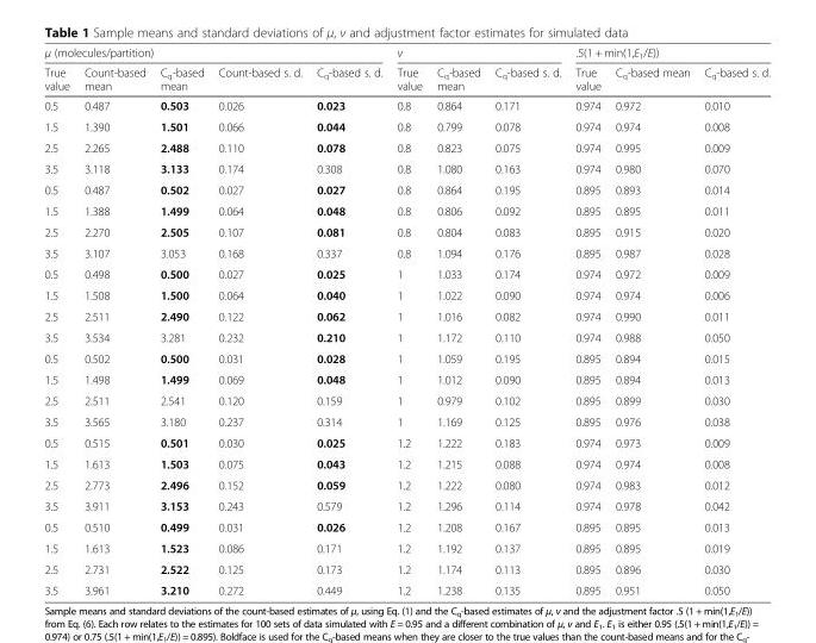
<table><thead><tr><td colspan="5">μ (molecules/partition)</td><td colspan="3">ν</td><td colspan="3">.5(1 + min(1,E<sub>1</sub>/E))</td></tr><tr><td>True value</td><td>Count-based mean</td><td>C<sub>q</sub>-based mean</td><td>Count-based s. d.</td><td>C<sub>q</sub>-based s. d.</td><td>True value</td><td>C<sub>q</sub>-based mean</td><td>C<sub>q</sub>-based s. d.</td><td>True value</td><td>C<sub>q</sub>-based mean</td><td>C<sub>q</sub>-based s. d.</td></tr></thead><tbody><tr><td>0.5</td><td>0.487</td><td>0.503</td><td>0.026</td><td>0.023</td><td>0.8</td><td>0.864</td><td>0.171</td><td>0.974</td><td>0.972</td><td>0.010</td></tr><tr><td>1.5</td><td>1.390</td><td>1.501</td><td>0.066</td><td>0.044</td><td>0.8</td><td>0.799</td><td>0.078</td><td>0.974</td><td>0.974</td><td>0.008</td></tr><tr><td>2.5</td><td>2.265</td><td>2.488</td><td>0.110</td><td>0.078</td><td>0.8</td><td>0.823</td><td>0.075</td><td>0.974</td><td>0.995</td><td>0.009</td></tr><tr><td>3.5</td><td>3.118</td><td>3.133</td><td>0.174</td><td>0.308</td><td>0.8</td><td>1.080</td><td>0.163</td><td>0.974</td><td>0.980</td><td>0.070</td></tr><tr><td>0.5</td><td>0.487</td><td>0.502</td><td>0.027</td><td>0.027</td><td>0.8</td><td>0.864</td><td>0.195</td><td>0.895</td><td>0.893</td><td>0.014</td></tr><tr><td>1.5</td><td>1.388</td><td>1.499</td><td>0.064</td><td>0.048</td><td>0.8</td><td>0.806</td><td>0.092</td><td>0.895</td><td>0.895</td><td>0.011</td></tr><tr><td>2.5</td><td>2.270</td><td>2.505</td><td>0.107</td><td>0.081</td><td>0.8</td><td>0.804</td><td>0.083</td><td>0.895</td><td>0.915</td><td>0.020</td></tr><tr><td>3.5</td><td>3.107</td><td>3.053</td><td>0.168</td><td>0.337</td><td>0.8</td><td>1.094</td><td>0.176</td><td>0.895</td><td>0.987</td><td>0.028</td></tr><tr><td>0.5</td><td>0.498</td><td>0.500</td><td>0.027</td><td>0.025</td><td>1</td><td>1.033</td><td>0.174</td><td>0.974</td><td>0.972</td><td>0.009</td></tr><tr><td>1.5</td><td>1.508</td><td>1.500</td><td>0.064</td><td>0.040</td><td>1</td><td>1.022</td><td>0.090</td><td>0.974</td><td>0.974</td><td>0.006</td></tr><tr><td>2.5</td><td>2.511</td><td>2.490</td><td>0.122</td><td>0.062</td><td>1</td><td>1.016</td><td>0.082</td><td>0.974</td><td>0.990</td><td>0.011</td></tr><tr><td>3.5</td><td>3.534</td><td>3.281</td><td>0.232</td><td>0.210</td><td>1</td><td>1.172</td><td>0.110</td><td>0.974</td><td>0.988</td><td>0.050</td></tr><tr><td>0.5</td><td>0.502</td><td>0.500</td><td>0.031</td><td>0.028</td><td>1</td><td>1.059</td><td>0.195</td><td>0.895</td><td>0.894</td><td>0.015</td></tr><tr><td>1.5</td><td>1.498</td><td>1.499</td><td>0.069</td><td>0.048</td><td>1</td><td>1.012</td><td>0.090</td><td>0.895</td><td>0.894</td><td>0.013</td></tr><tr><td>2.5</td><td>2.511</td><td>2.541</td><td>0.120</td><td>0.159</td><td>1</td><td>0.979</td><td>0.102</td><td>0.895</td><td>0.899</td><td>0.030</td></tr><tr><td>3.5</td><td>3.565</td><td>3.180</td><td>0.237</td><td>0.314</td><td>1</td><td>1.169</td><td>0.125</td><td>0.895</td><td>0.976</td><td>0.038</td></tr><tr><td>0.5</td><td>0.515</td><td>0.501</td><td>0.030</td><td>0.025</td><td>1.2</td><td>1.222</td><td>0.183</td><td>0.974</td><td>0.973</td><td>0.009</td></tr><tr><td>1.5</td><td>1.613</td><td>1.503</td><td>0.075</td><td>0.043</td><td>1.2</td><td>1.215</td><td>0.088</td><td>0.974</td><td>0.974</td><td>0.008</td></tr><tr><td>2.5</td><td>2.773</td><td>2.496</td><td>0.152</td><td>0.059</td><td>1.2</td><td>1.222</td><td>0.080</td><td>0.974</td><td>0.983</td><td>0.012</td></tr><tr><td>3.5</td><td>3.911</td><td>3.153</td><td>0.243</td><td>0.579</td><td>1.2</td><td>1.296</td><td>0.114</td><td>0.974</td><td>0.978</td><td>0.042</td></tr><tr><td>0.5</td><td>0.510</td><td>0.499</td><td>0.031</td><td>0.026</td><td>1.2</td><td>1.208</td><td>0.167</td><td>0.895</td><td>0.895</td><td>0.013</td></tr><tr><td>1.5</td><td>1.613</td><td>1.523</td><td>0.086</td><td>0.171</td><td>1.2</td><td>1.192</td><td>0.137</td><td>0.895</td><td>0.895</td><td>0.019</td></tr><tr><td>2.5</td><td>2.731</td><td>2.522</td><td>0.125</td><td>0.173</td><td>1.2</td><td>1.174</td><td>0.113</td><td>0.895</td><td>0.896</td><td>0.030</td></tr><tr><td>3.5</td><td>3.961</td><td>3.210</td><td>0.272</td><td>0.449</td><td>1.2</td><td>1.238</td><td>0.135</td><td>0.895</td><td>0.951</td><td>0.050</td></tr></tbody></table>